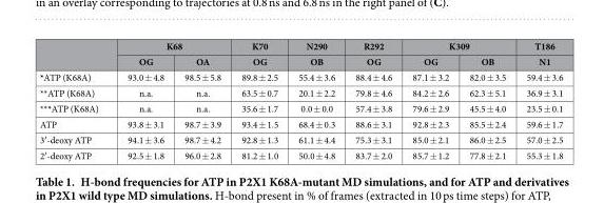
<table><thead><tr><td rowspan="2"></td><td colspan="2">K68</td><td rowspan="2">K70 OG</td><td rowspan="2">N290 OB</td><td rowspan="2">R292 OG</td><td colspan="2">K309</td><td rowspan="2">T186 N1</td></tr><tr><td>OG</td><td>OA</td><td>OG</td><td>OB</td></tr></thead><tbody><tr><td>*ATP (K68A)</td><td>93.0 ± 4.8</td><td>98.5 ± 5.8</td><td>89.8 ± 2.5</td><td>55.4 ± 3.6</td><td>88.4 ± 4.6</td><td>87.1 ± 3.2</td><td>82.0 ± 3.5</td><td>59.4 ± 3.6</td></tr><tr><td>**ATP (K68A)</td><td>n.a.</td><td>n.a.</td><td>63.5 ± 0.7</td><td>20.1 ± 2.2</td><td>79.8 ± 4.6</td><td>84.2 ± 2.6</td><td>62.3 ± 5.1</td><td>36.9 ± 3.1</td></tr><tr><td>***ATP (K68A)</td><td>n.a.</td><td>n.a.</td><td>35.6 ± 1.7</td><td>0.0 ± 0.0</td><td>57.4 ± 3.8</td><td>79.6 ± 2.9</td><td>45.5 ± 4.0</td><td>23.5 ± 0.1</td></tr><tr><td>ATP</td><td>93.8 ± 3.1</td><td>98.7 ± 3.9</td><td>93.4 ± 1.5</td><td>68.4 ± 0.3</td><td>88.6 ± 3.1</td><td>92.8 ± 2.3</td><td>85.5 ± 2.4</td><td>59.6 ± 1.7</td></tr><tr><td>3′ -deoxy ATP</td><td>94.1 ± 3.6</td><td>98.7 ± 4.2</td><td>92.8 ± 1.3</td><td>61.1 ± 4.4</td><td>75.3 ± 3.1</td><td>85.0 ± 2.1</td><td>86.0 ± 2.5</td><td>57.0 ± 2.5</td></tr><tr><td>2′ -deoxy ATP</td><td>92.5 ± 1.8</td><td>96.0 ± 2.8</td><td>81.2 ± 1.0</td><td>50.0 ± 4.8</td><td>83.7 ± 2.0</td><td>85.7 ± 1.2</td><td>77.8 ± 2.1</td><td>55.3 ± 1.8</td></tr></tbody></table>